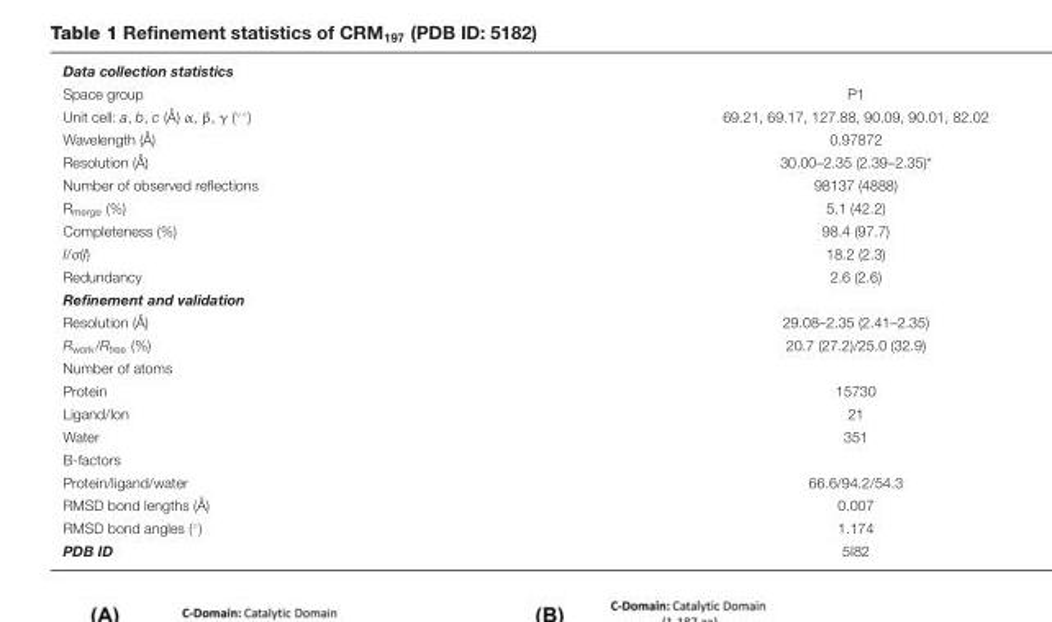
<table><tbody><tr><td colspan="2">Data collection statistics</td></tr><tr><td>Space group</td><td>P1</td></tr><tr><td>Unit cell: a, b, c ( ˚A) α, β, γ (◦◦)</td><td>69.21, 69.17, 127.88, 90.09, 90.01, 82.02</td></tr><tr><td>Wavelength ( ˚A)</td><td>0.97872</td></tr><tr><td>Resolution ( ˚A)</td><td>30.00–2.35 (2.39–2.35)*</td></tr><tr><td>Number of observed reflections</td><td>98137 (4888)</td></tr><tr><td>R<sub>merge</sub> (%)</td><td>5.1 (42.2)</td></tr><tr><td>Completeness (%)</td><td>98.4 (97.7)</td></tr><tr><td>I/σ(I)</td><td>18.2 (2.3)</td></tr><tr><td>Redundancy</td><td>2.6 (2.6)</td></tr><tr><td colspan="2">Refinement and validation</td></tr><tr><td>Resolution ( ˚A)</td><td>29.08–2.35 (2.41–2.35)</td></tr><tr><td>R<sub>work</sub>/R<sub>free</sub> (%)</td><td>20.7 (27.2)/25.0 (32.9)</td></tr><tr><td colspan="2">Number of atoms</td></tr><tr><td>Protein</td><td>15730</td></tr><tr><td>Ligand/Ion</td><td>21</td></tr><tr><td>Water</td><td>351</td></tr><tr><td colspan="2">B-factors</td></tr><tr><td>Protein/ligand/water</td><td>66.6/94.2/54.3</td></tr><tr><td>RMSD bond lengths ( ˚A)</td><td>0.007</td></tr><tr><td>RMSD bond angles (◦)</td><td>1.174</td></tr><tr><td>PDB ID</td><td>5I82</td></tr></tbody></table>